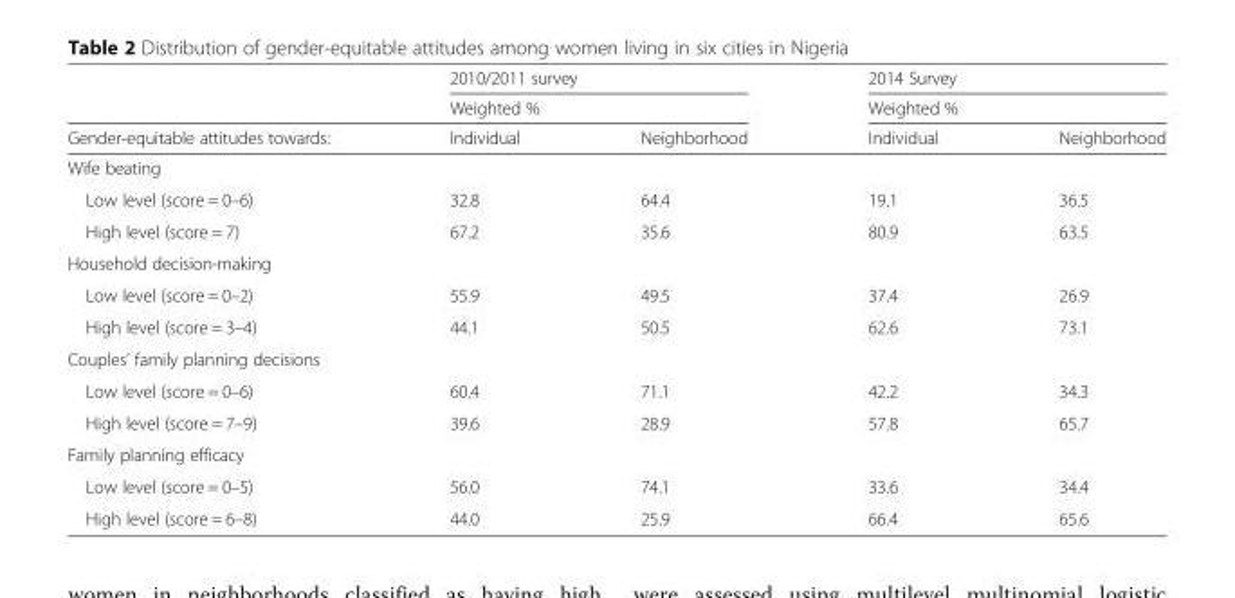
<table><thead><tr><td rowspan="3">Gender-equitable attitudes towards:</td><td rowspan="2" colspan="2">2010/2011 survey Weighted %</td><td rowspan="2" colspan="2">2014 Survey Weighted %</td></tr><tr></tr><tr><td>Individual</td><td>Neighborhood</td><td>Individual</td><td>Neighborhood</td></tr></thead><tbody><tr><td colspan="5">Wife beating</td></tr><tr><td>Low level (score = 0–6)</td><td>32.8</td><td>64.4</td><td>19.1</td><td>36.5</td></tr><tr><td>High level (score = 7)</td><td>67.2</td><td>35.6</td><td>80.9</td><td>63.5</td></tr><tr><td colspan="5">Household decision-making</td></tr><tr><td>Low level (score = 0–2)</td><td>55.9</td><td>49.5</td><td>37.4</td><td>26.9</td></tr><tr><td>High level (score = 3–4)</td><td>44.1</td><td>50.5</td><td>62.6</td><td>73.1</td></tr><tr><td colspan="5">Couples’ family planning decisions</td></tr><tr><td>Low level (score = 0–6)</td><td>60.4</td><td>71.1</td><td>42.2</td><td>34.3</td></tr><tr><td>High level (score = 7–9)</td><td>39.6</td><td>28.9</td><td>57.8</td><td>65.7</td></tr><tr><td colspan="5">Family planning efficacy</td></tr><tr><td>Low level (score = 0–5)</td><td>56.0</td><td>74.1</td><td>33.6</td><td>34.4</td></tr><tr><td>High level (score = 6–8)</td><td>44.0</td><td>25.9</td><td>66.4</td><td>65.6</td></tr></tbody></table>